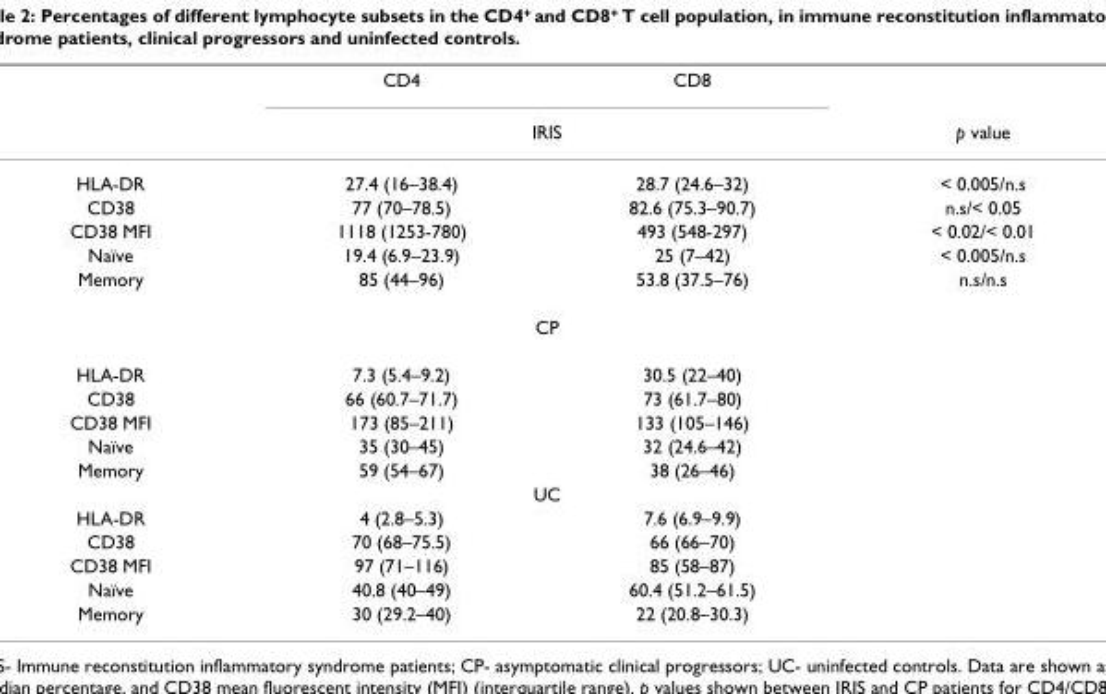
<table><thead><tr><td rowspan="2"></td><td>CD4</td><td>CD8</td><td rowspan="2">p value</td></tr><tr><td colspan="2">IRIS</td></tr></thead><tbody><tr><td>HLA-DR</td><td>27.4 (16–38.4)</td><td>28.7 (24.6–32)</td><td>&lt; 0.005/n.s</td></tr><tr><td>CD38</td><td>77 (70–78.5)</td><td>82.6 (75.3–90.7)</td><td>n.s/&lt; 0.05</td></tr><tr><td>CD38 MFI</td><td>1118 (1253-780)</td><td>493 (548-297)</td><td>&lt; 0.02/&lt; 0.01</td></tr><tr><td>Naïve</td><td>19.4 (6.9–23.9)</td><td>25 (7–42)</td><td>&lt; 0.005/n.s</td></tr><tr><td rowspan="2">Memory</td><td>85 (44–96)</td><td>53.8 (37.5–76)</td><td>n.s/n.s</td></tr><tr><td colspan="2">CP</td><td></td></tr><tr><td>HLA-DR</td><td>7.3 (5.4–9.2)</td><td>30.5 (22–40)</td><td></td></tr><tr><td>CD38</td><td>66 (60.7–71.7)</td><td>73 (61.7–80)</td><td></td></tr><tr><td>CD38 MFI</td><td>173 (85–211)</td><td>133 (105–146)</td><td></td></tr><tr><td>Naïve</td><td>35 (30–45)</td><td>32 (24.6–42)</td><td></td></tr><tr><td rowspan="2">Memory</td><td>59 (54–67)</td><td>38 (26–46)</td><td></td></tr><tr><td colspan="2">UC</td><td></td></tr><tr><td>HLA-DR</td><td>4 (2.8–5.3)</td><td>7.6 (6.9–9.9)</td><td></td></tr><tr><td>CD38</td><td>70 (68–75.5)</td><td>66 (66–70)</td><td></td></tr><tr><td>CD38 MFI</td><td>97 (71–116)</td><td>85 (58–87)</td><td></td></tr><tr><td>Naïve</td><td>40.8 (40–49)</td><td>60.4 (51.2–61.5)</td><td></td></tr><tr><td>Memory</td><td>30 (29.2–40)</td><td>22 (20.8–30.3)</td><td></td></tr></tbody></table>